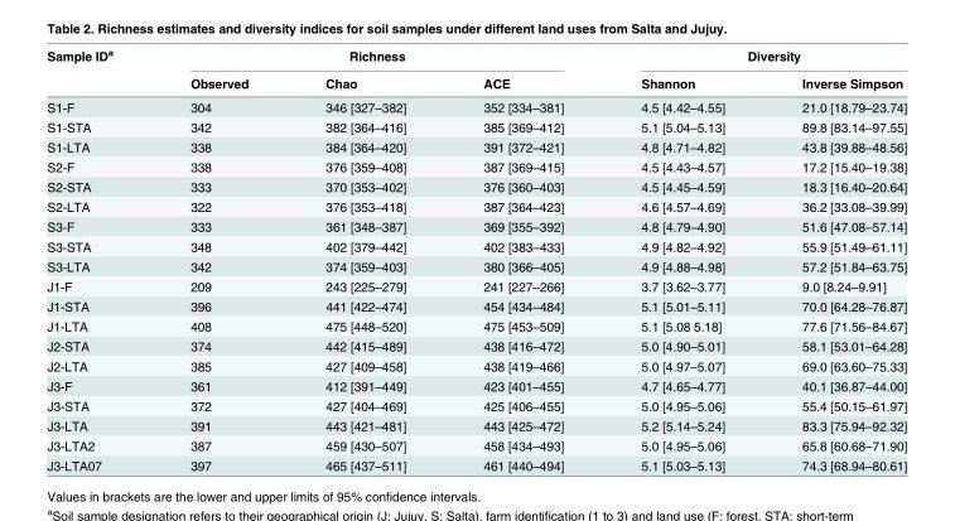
<table><thead><tr><td rowspan="2">Sample ID<sup>a</sup></td><td colspan="3">Richness</td><td colspan="2">Diversity</td></tr><tr><td>Observed</td><td>Chao</td><td>ACE</td><td>Shannon</td><td>Inverse Simpson</td></tr></thead><tbody><tr><td>S1-F</td><td>304</td><td>346 [327–382]</td><td>352 [334–381]</td><td>4.5 [4.42–4.55]</td><td>21.0 [18.79–23.74]</td></tr><tr><td>S1-STA</td><td>342</td><td>382 [364–416]</td><td>385 [369–412]</td><td>5.1 [5.04–5.13]</td><td>89.8 [83.14–97.55]</td></tr><tr><td>S1-LTA</td><td>338</td><td>384 [364–420]</td><td>391 [372–421]</td><td>4.8 [4.71–4.82]</td><td>43.8 [39.88–48.56]</td></tr><tr><td>S2-F</td><td>338</td><td>376 [359–408]</td><td>387 [369–415]</td><td>4.5 [4.43–4.57]</td><td>17.2 [15.40–19.38]</td></tr><tr><td>S2-STA</td><td>333</td><td>370 [353–402]</td><td>376 [360–403]</td><td>4.5 [4.45–4.59]</td><td>18.3 [16.40–20.64]</td></tr><tr><td>S2-LTA</td><td>322</td><td>376 [353–418]</td><td>387 [364–423]</td><td>4.6 [4.57–4.69]</td><td>36.2 [33.08–39.99]</td></tr><tr><td>S3-F</td><td>333</td><td>361 [348–387]</td><td>369 [355–392]</td><td>4.8 [4.79–4.90]</td><td>51.6 [47.08–57.14]</td></tr><tr><td>S3-STA</td><td>348</td><td>402 [379–442]</td><td>402 [383–433]</td><td>4.9 [4.82–4.92]</td><td>55.9 [51.49–61.11]</td></tr><tr><td>S3-LTA</td><td>342</td><td>374 [359–403]</td><td>380 [366–405]</td><td>4.9 [4.88–4.98]</td><td>57.2 [51.84–63.75]</td></tr><tr><td>J1-F</td><td>209</td><td>243 [225–279]</td><td>241 [227–266]</td><td>3.7 [3.62–3.77]</td><td>9.0 [8.24–9.91]</td></tr><tr><td>J1-STA</td><td>396</td><td>441 [422–474]</td><td>454 [434–484]</td><td>5.1 [5.01–5.11]</td><td>70.0 [64.28–76.87]</td></tr><tr><td>J1-LTA</td><td>408</td><td>475 [448–520]</td><td>475 [453–509]</td><td>5.1 [5.08 5.18]</td><td>77.6 [71.56–84.67]</td></tr><tr><td>J2-STA</td><td>374</td><td>442 [415–489]</td><td>438 [416–472]</td><td>5.0 [4.90–5.01]</td><td>58.1 [53.01–64.28]</td></tr><tr><td>J2-LTA</td><td>385</td><td>427 [409–458]</td><td>438 [419–466]</td><td>5.0 [4.97–5.07]</td><td>69.0 [63.60–75.33]</td></tr><tr><td>J3-F</td><td>361</td><td>412 [391–449]</td><td>423 [401–455]</td><td>4.7 [4.65–4.77]</td><td>40.1 [36.87–44.00]</td></tr><tr><td>J3-STA</td><td>372</td><td>427 [404–469]</td><td>425 [406–455]</td><td>5.0 [4.95–5.06]</td><td>55.4 [50.15–61.97]</td></tr><tr><td>J3-LTA</td><td>391</td><td>443 [421–481]</td><td>443 [425–472]</td><td>5.2 [5.14–5.24]</td><td>83.3 [75.94–92.32]</td></tr><tr><td>J3-LTA2</td><td>387</td><td>459 [430–507]</td><td>458 [434–493]</td><td>5.0 [4.95–5.06]</td><td>65.8 [60.68–71.90]</td></tr><tr><td>J3-LTA07</td><td>397</td><td>465 [437–511]</td><td>461 [440–494]</td><td>5.1 [5.03–5.13]</td><td>74.3 [68.94–80.61]</td></tr></tbody></table>